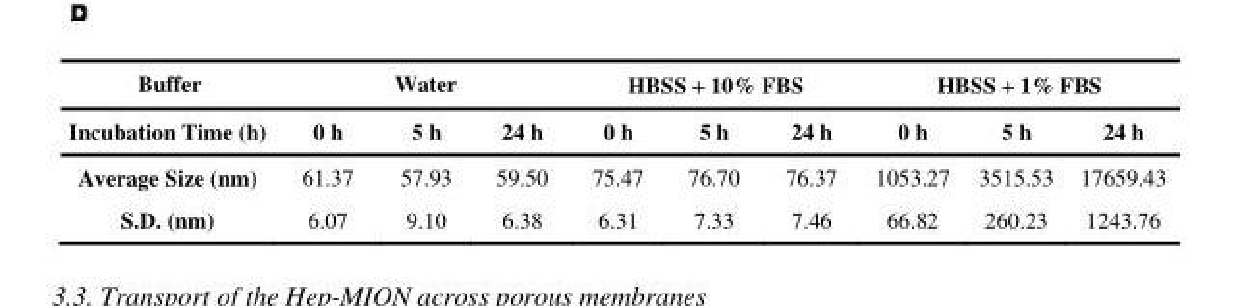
<table><thead><tr><td rowspan="2">Buffer Incubation Time (h)</td><td colspan="3">Water</td><td colspan="3">HBSS + 10% FBS</td><td colspan="3">HBSS + 1% FBS</td></tr><tr><td>0 h</td><td>5 h</td><td>24 h</td><td>0 h</td><td>5 h</td><td>24 h</td><td>0 h</td><td>5 h</td><td>24 h</td></tr></thead><tbody><tr><td>Average Size (nm)</td><td>61.37</td><td>57.93</td><td>59.50</td><td>75.47</td><td>76.70</td><td>76.37</td><td>1053.27</td><td>3515.53</td><td>17659.43</td></tr><tr><td>S.D. (nm)</td><td>6.07</td><td>9.10</td><td>6.38</td><td>6.31</td><td>7.33</td><td>7.46</td><td>66.82</td><td>260.23</td><td>1243.76</td></tr></tbody></table>